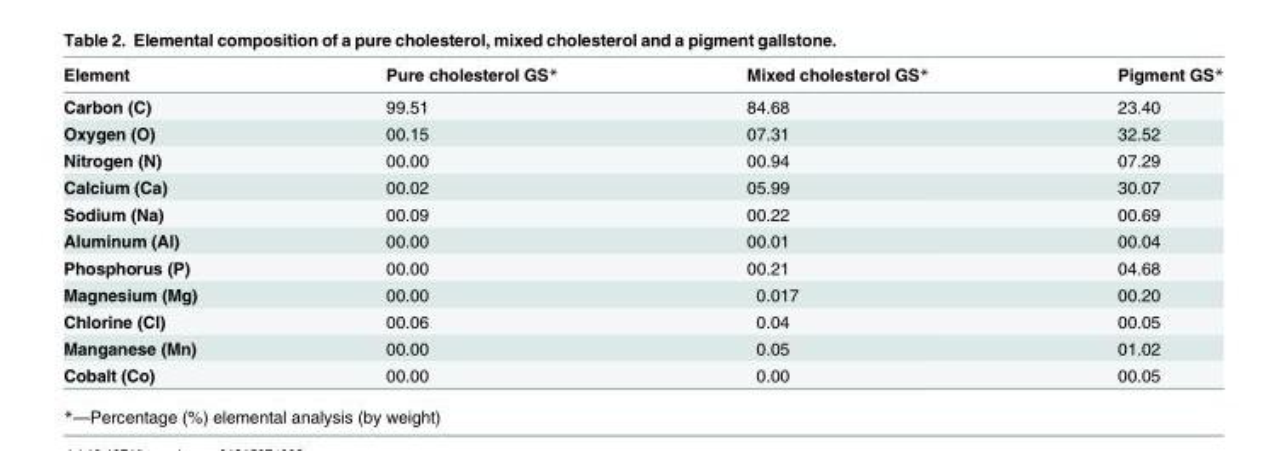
<table><thead><tr><td>Element</td><td>Pure cholesterol GS*</td><td>Mixed cholesterol GS*</td><td>Pigment GS*</td></tr></thead><tbody><tr><td>Carbon (C)</td><td>99.51</td><td>84.68</td><td>23.40</td></tr><tr><td>Oxygen (O)</td><td>00.15</td><td>07.31</td><td>32.52</td></tr><tr><td>Nitrogen (N)</td><td>00.00</td><td>00.94</td><td>07.29</td></tr><tr><td>Calcium (Ca)</td><td>00.02</td><td>05.99</td><td>30.07</td></tr><tr><td>Sodium (Na)</td><td>00.09</td><td>00.22</td><td>00.69</td></tr><tr><td>Aluminum (Al)</td><td>00.00</td><td>00.01</td><td>00.04</td></tr><tr><td>Phosphorus (P)</td><td>00.00</td><td>00.21</td><td>04.68</td></tr><tr><td>Magnesium (Mg)</td><td>00.00</td><td>0.017</td><td>00.20</td></tr><tr><td>Chlorine (Cl)</td><td>00.06</td><td>0.04</td><td>00.05</td></tr><tr><td>Manganese (Mn)</td><td>00.00</td><td>0.05</td><td>01.02</td></tr><tr><td>Cobalt (Co)</td><td>00.00</td><td>0.00</td><td>00.05</td></tr></tbody></table>